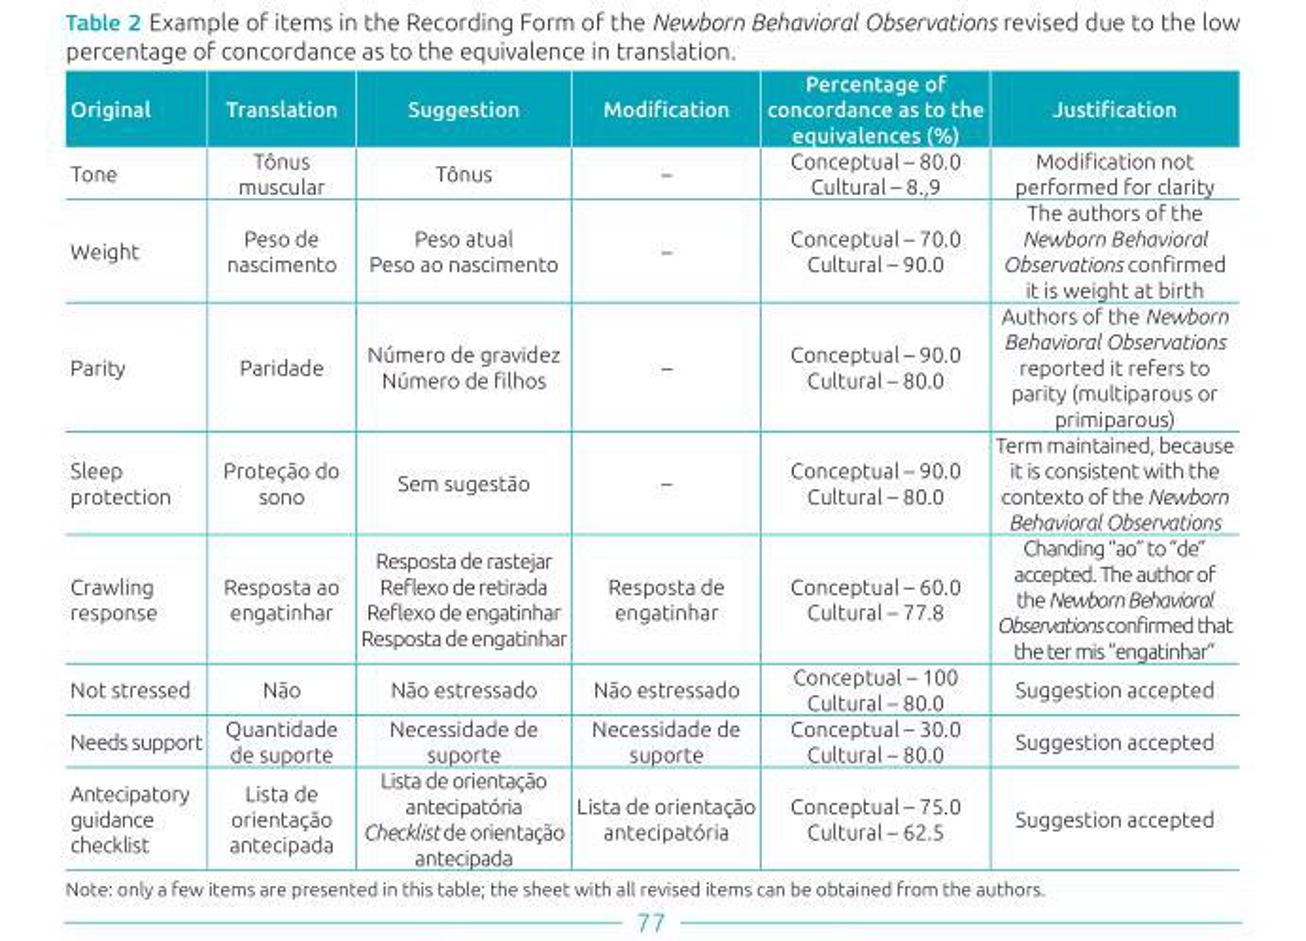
<table><thead><tr><td>Original</td><td>Translation</td><td>Suggestion</td><td>Modification</td><td>Percentage of concordance as to the equivalences (%)</td><td>Justification</td></tr></thead><tbody><tr><td>Tone</td><td>Tônus muscular</td><td>Tônus</td><td>–</td><td>Conceptual – 80.0 Cultural – 8.,9</td><td>Modification not performed for clarity</td></tr><tr><td>Weight</td><td>Peso de nascimento</td><td>Peso atual Peso ao nascimento</td><td>–</td><td>Conceptual – 70.0 Cultural – 90.0</td><td>The authors of the Newborn Behavioral Observations confirmed it is weight at birth</td></tr><tr><td>Parity</td><td>Paridade</td><td>Número de gravidez Número de filhos</td><td>–</td><td>Conceptual – 90.0 Cultural – 80.0</td><td>Authors of the Newborn Behavioral Observations reported it refers to parity (multiparous or primiparous)</td></tr><tr><td>Sleep protection</td><td>Proteção do sono</td><td>Sem sugestão</td><td>–</td><td>Conceptual – 90.0 Cultural – 80.0</td><td>Term maintained, because it is consistent with the contexto of the Newborn Behavioral Observations</td></tr><tr><td>Crawling response</td><td>Resposta ao engatinhar</td><td>Resposta de rastejar Reflexo de retirada Reflexo de engatinhar Resposta de engatinhar</td><td>Resposta de engatinhar</td><td>Conceptual – 60.0 Cultural – 77.8</td><td>Chanding “ao” to “de” accepted. The author of the Newborn Behavioral Observations confirmed that the ter mis “engatinhar”</td></tr><tr><td>Not stressed</td><td>Não</td><td>Não estressado</td><td>Não estressado</td><td>Conceptual – 100 Cultural – 80.0</td><td>Suggestion accepted</td></tr><tr><td>Needs support</td><td>Quantidade de suporte</td><td>Necessidade de suporte</td><td>Necessidade de suporte</td><td>Conceptual – 30.0 Cultural – 80.0</td><td>Suggestion accepted</td></tr><tr><td>Antecipatory guidance checklist</td><td>Lista de orientação antecipada</td><td>Lista de orientação antecipatória Checklist de orientação antecipada</td><td>Lista de orientação antecipatória</td><td>Conceptual – 75.0 Cultural – 62.5</td><td>Suggestion accepted</td></tr></tbody></table>